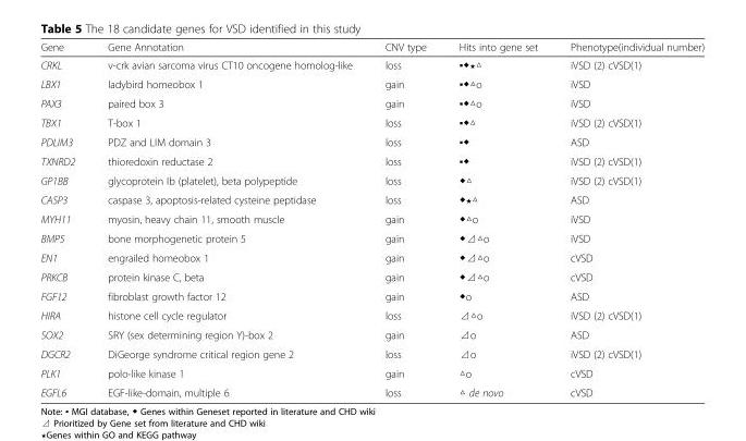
<table><thead><tr><td>Gene</td><td>Gene Annotation</td><td>CNV type</td><td>Hits into gene set</td><td>Phenotype(individual number)</td></tr></thead><tbody><tr><td>CRKL</td><td>v-crk avian sarcoma virus CT10 oncogene homolog-like</td><td>loss</td><td>▪◆⋆△</td><td>iVSD (2) cVSD(1)</td></tr><tr><td>LBX1</td><td>ladybird homeobox 1</td><td>gain</td><td>▪◆△ο</td><td>iVSD</td></tr><tr><td>PAX3</td><td>paired box 3</td><td>gain</td><td>▪◆△ο</td><td>iVSD</td></tr><tr><td>TBX1</td><td>T-box 1</td><td>loss</td><td>▪◆△</td><td>iVSD (2) cVSD(1)</td></tr><tr><td>PDLIM3</td><td>PDZ and LIM domain 3</td><td>loss</td><td>▪◆</td><td>ASD</td></tr><tr><td>TXNRD2</td><td>thioredoxin reductase 2</td><td>loss</td><td>▪◆</td><td>iVSD (2) cVSD(1)</td></tr><tr><td>GP1BB</td><td>glycoprotein Ib (platelet), beta polypeptide</td><td>loss</td><td>◆△</td><td>iVSD (2) cVSD(1)</td></tr><tr><td>CASP3</td><td>caspase 3, apoptosis-related cysteine peptidase</td><td>loss</td><td>◆⋆△</td><td>ASD</td></tr><tr><td>MYH11</td><td>myosin, heavy chain 11, smooth muscle</td><td>gain</td><td>◆△ο</td><td>iVSD</td></tr><tr><td>BMP5</td><td>bone morphogenetic protein 5</td><td>gain</td><td>◆⊿△ο</td><td>iVSD</td></tr><tr><td>EN1</td><td>engrailed homeobox 1</td><td>gain</td><td>◆⊿△ο</td><td>cVSD</td></tr><tr><td>PRKCB</td><td>protein kinase C, beta</td><td>gain</td><td>◆⊿△ο</td><td>cVSD</td></tr><tr><td>FGF12</td><td>fibroblast growth factor 12</td><td>gain</td><td>◆ο</td><td>ASD</td></tr><tr><td>HIRA</td><td>histone cell cycle regulator</td><td>loss</td><td>⊿△ο</td><td>iVSD (2) cVSD(1)</td></tr><tr><td>SOX2</td><td>SRY (sex determining region Y)-box 2</td><td>gain</td><td>⊿ο</td><td>ASD</td></tr><tr><td>DGCR2</td><td>DiGeorge syndrome critical region gene 2</td><td>loss</td><td>⊿ο</td><td>iVSD (2) cVSD(1)</td></tr><tr><td>PLK1</td><td>polo-like kinase 1</td><td>gain</td><td>△ο</td><td>cVSD</td></tr><tr><td>EGFL6</td><td>EGF-like-domain, multiple 6</td><td>loss</td><td>△ de novo</td><td>cVSD</td></tr></tbody></table>